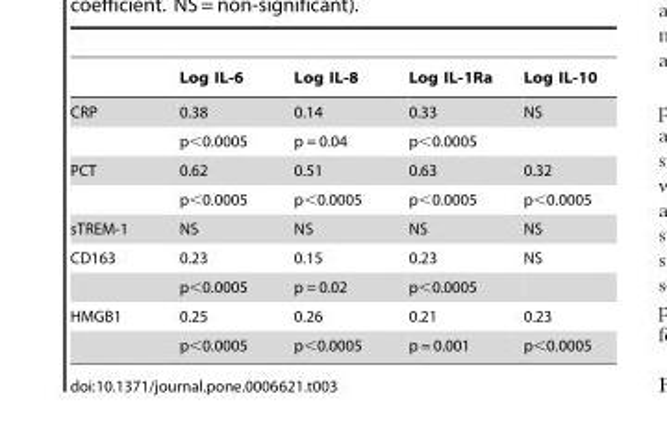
<table><thead><tr><td></td><td>Log IL-6</td><td>Log IL-8</td><td>Log IL-1Ra</td><td>Log IL-10</td></tr></thead><tbody><tr><td rowspan="2">CRP</td><td>0.38</td><td>0.14</td><td>0.33</td><td>NS</td></tr><tr><td>p&lt;0.0005</td><td>p = 0.04</td><td>p&lt;0.0005</td><td></td></tr><tr><td rowspan="2">PCT</td><td>0.62</td><td>0.51</td><td>0.63</td><td>0.32</td></tr><tr><td>p&lt;0.0005</td><td>p&lt;0.0005</td><td>p&lt;0.0005</td><td>p&lt;0.0005</td></tr><tr><td>sTREM-1</td><td>NS</td><td>NS</td><td>NS</td><td>NS</td></tr><tr><td rowspan="2">CD163</td><td>0.23</td><td>0.15</td><td>0.23</td><td>NS</td></tr><tr><td>p&lt;0.0005</td><td>p = 0.02</td><td>p&lt;0.0005</td><td></td></tr><tr><td rowspan="2">HMGB1</td><td>0.25</td><td>0.26</td><td>0.21</td><td>0.23</td></tr><tr><td>p&lt;0.0005</td><td>p&lt;0.0005</td><td>p = 0.001</td><td>p&lt;0.0005</td></tr></tbody></table>